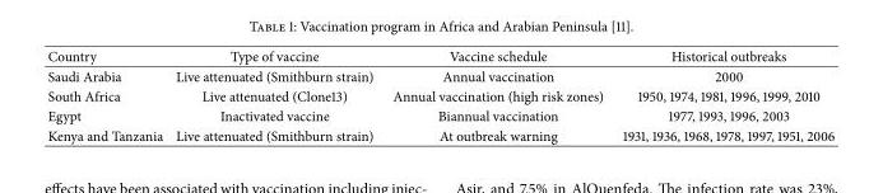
<table><thead><tr><td>Country</td><td>Type of vaccine</td><td>Vaccine schedule</td><td>Historical outbreaks</td></tr></thead><tbody><tr><td>Saudi Arabia</td><td>Live attenuated (Smithburn strain)</td><td>Annual vaccination</td><td>2000</td></tr><tr><td>South Africa</td><td>Live attenuated (Clone13)</td><td>Annual vaccination (high risk zones)</td><td>1950, 1974, 1981, 1996, 1999, 2010</td></tr><tr><td>Egypt</td><td>Inactivated vaccine</td><td>Biannual vaccination</td><td>1977, 1993, 1996, 2003</td></tr><tr><td>Kenya and Tanzania</td><td>Live attenuated (Smithburn strain)</td><td>At outbreak warning</td><td>1931, 1936, 1968, 1978, 1997, 1951, 2006</td></tr></tbody></table>